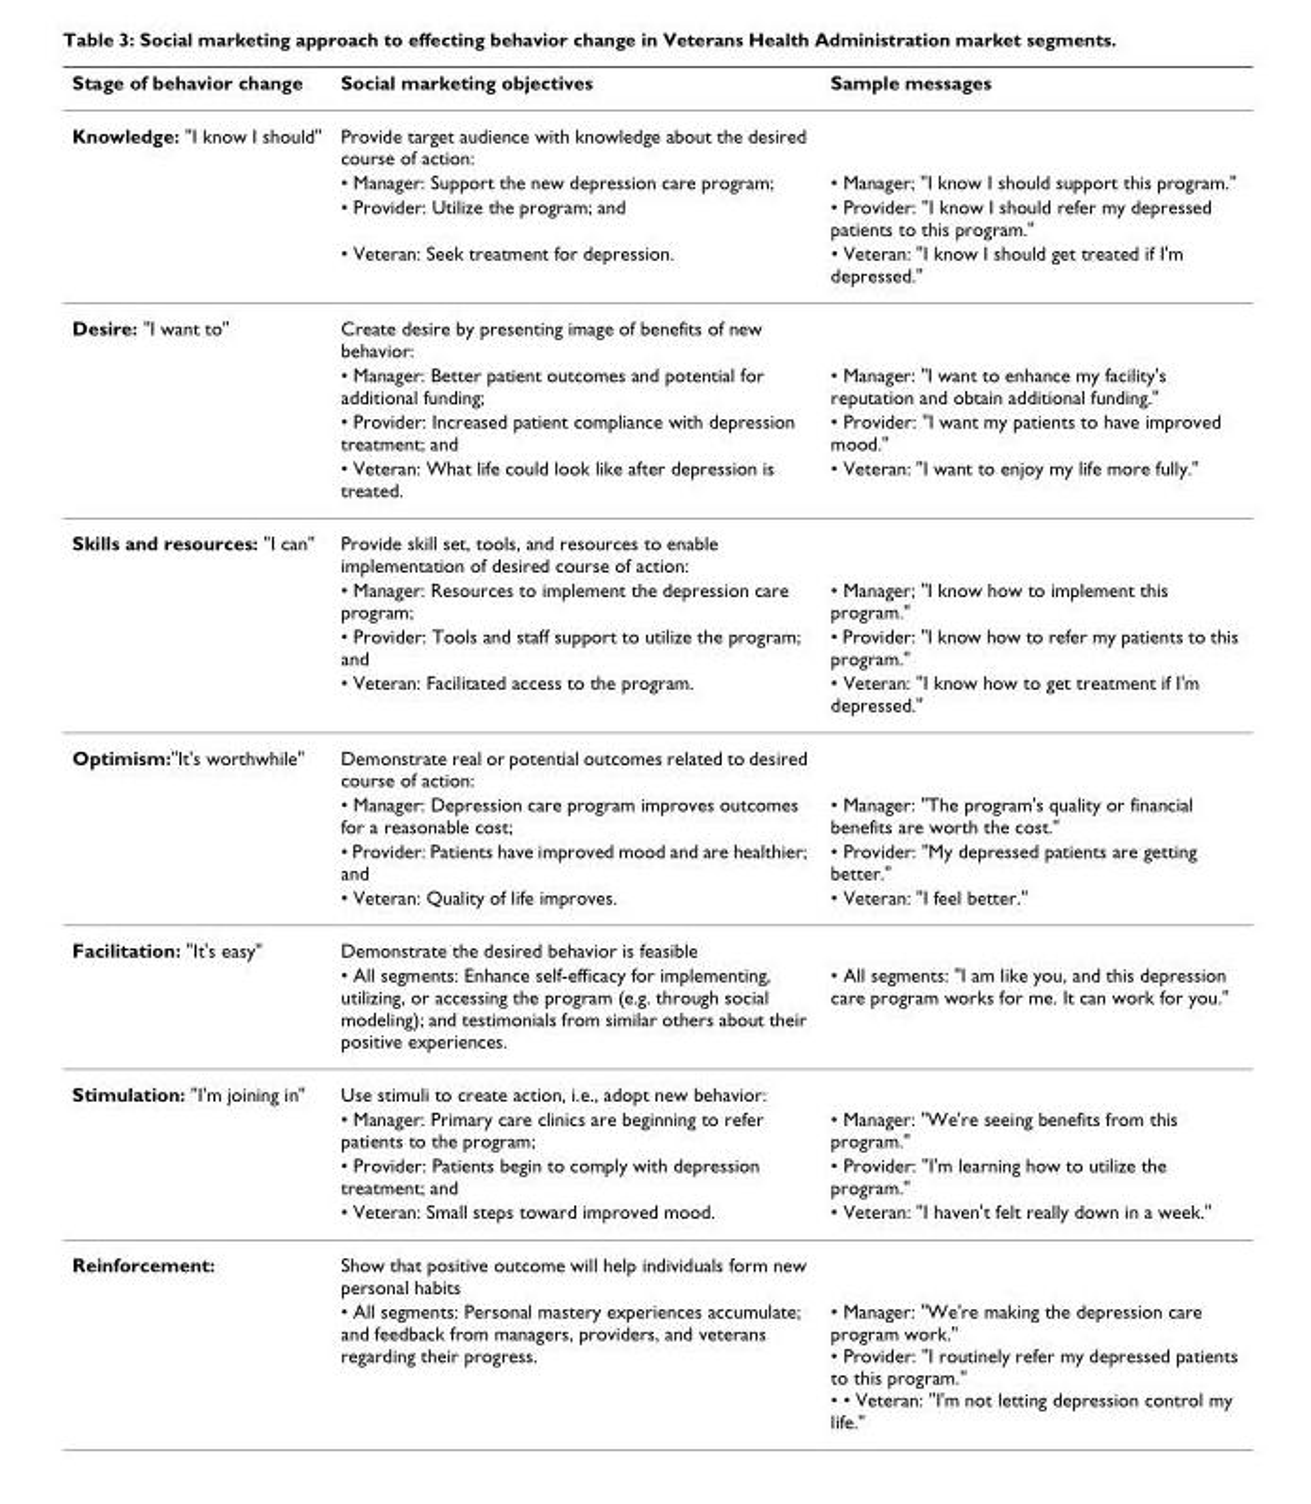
<table><thead><tr><td>Stage of behavior change</td><td>Social marketing objectives</td><td>Sample messages</td></tr></thead><tbody><tr><td rowspan="4">Knowledge: &quot;I know I should&quot;</td><td>Provide target audience with knowledge about the desired course of action:</td><td></td></tr><tr><td>• Manager: Support the new depression care program;</td><td>• Manager; &quot;I know I should support this program.&quot;</td></tr><tr><td>• Provider: Utilize the program; and</td><td>• Provider: &quot;I know I should refer my depressed patients to this program.&quot;</td></tr><tr><td>• Veteran: Seek treatment for depression.</td><td>• Veteran: &quot;I know I should get treated if I&#x27;m depressed.&quot;</td></tr><tr><td rowspan="4">Desire: &quot;I want to&quot;</td><td>Create desire by presenting image of benefits of new behavior:</td><td></td></tr><tr><td>• Manager: Better patient outcomes and potential for additional funding;</td><td>• Manager: &quot;I want to enhance my facility&#x27;s reputation and obtain additional funding.&quot;</td></tr><tr><td>• Provider: Increased patient compliance with depression treatment; and</td><td>• Provider: &quot;I want my patients to have improved mood.&quot;</td></tr><tr><td>• Veteran: What life could look like after depression is treated.</td><td>• Veteran: &quot;I want to enjoy my life more fully.&quot;</td></tr><tr><td rowspan="4">Skills and resources: &quot;I can&quot;</td><td>Provide skill set, tools, and resources to enable implementation of desired course of action:</td><td></td></tr><tr><td>• Manager: Resources to implement the depression care program;</td><td>• Manager; &quot;I know how to implement this program.&quot;</td></tr><tr><td>• Provider: Tools and staff support to utilize the program; and</td><td>• Provider: &quot;I know how to refer my patients to this program.&quot;</td></tr><tr><td>• Veteran: Facilitated access to the program.</td><td>• Veteran: &quot;I know how to get treatment if I&#x27;m depressed.&quot;</td></tr><tr><td rowspan="4">Optimism:&quot;It&#x27;s worthwhile&quot;</td><td>Demonstrate real or potential outcomes related to desired course of action:</td><td></td></tr><tr><td>• Manager: Depression care program improves outcomes for a reasonable cost;</td><td>• Manager: &quot;The program&#x27;s quality or financial benefits are worth the cost.&quot;</td></tr><tr><td>• Provider: Patients have improved mood and are healthier; and</td><td>• Provider: &quot;My depressed patients are getting better.&quot;</td></tr><tr><td>• Veteran: Quality of life improves.</td><td>• Veteran: &quot;I feel better.&quot;</td></tr><tr><td rowspan="2">Facilitation: &quot;It&#x27;s easy&quot;</td><td>Demonstrate the desired behavior is feasible</td><td></td></tr><tr><td>• All segments: Enhance self-efficacy for implementing, utilizing, or accessing the program (e.g. through social modeling); and testimonials from similar others about their positive experiences.</td><td>• All segments: &quot;I am like you, and this depression care program works for me. It can work for you.&quot;</td></tr><tr><td rowspan="4">Stimulation: &quot;I&#x27;m joining in&quot;</td><td>Use stimuli to create action, i.e., adopt new behavior:</td><td></td></tr><tr><td>• Manager: Primary care clinics are beginning to refer patients to the program;</td><td>• Manager: &quot;We&#x27;re seeing benefits from this program.&quot;</td></tr><tr><td>• Provider: Patients begin to comply with depression treatment; and</td><td>• Provider: &quot;I&#x27;m learning how to utilize the program.&quot;</td></tr><tr><td>• Veteran: Small steps toward improved mood.</td><td>• Veteran: &quot;I haven&#x27;t felt really down in a week.&quot;</td></tr><tr><td rowspan="2">Reinforcement:</td><td>Show that positive outcome will help individuals form new personal habits</td><td></td></tr><tr><td>• All segments: Personal mastery experiences accumulate; and feedback from managers, providers, and veterans regarding their progress.</td><td>• Manager: &quot;We&#x27;re making the depression care program work.&quot; • Provider: &quot;I routinely refer my depressed patients to this program.&quot; • • Veteran: &quot;I&#x27;m not letting depression control my life.&quot;</td></tr></tbody></table>